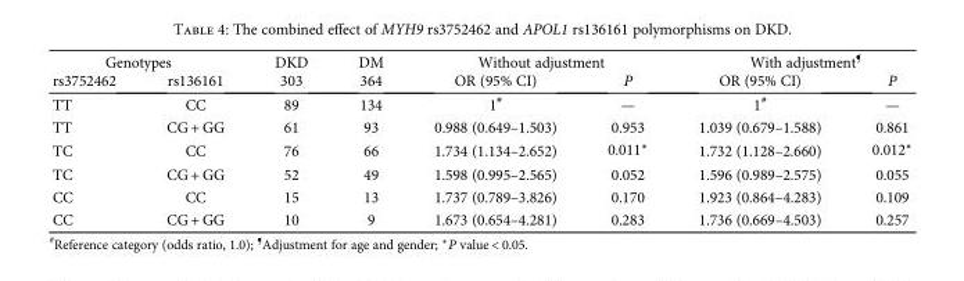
<table><thead><tr><td colspan="2">Genotypes</td><td rowspan="2">DKD 303</td><td rowspan="2">DM 364</td><td colspan="2">Without adjustment</td><td colspan="2">With adjustment<sup>¶</sup></td></tr><tr><td>rs3752462</td><td>rs136161</td><td>OR (95% CI)</td><td>P</td><td>OR (95% CI)</td><td>P</td></tr></thead><tbody><tr><td>TT</td><td>CC</td><td>89</td><td>134</td><td>1<sup>#</sup></td><td>—</td><td>1<sup>#</sup></td><td>—</td></tr><tr><td>TT</td><td>CG + GG</td><td>61</td><td>93</td><td>0.988 (0.649–1.503)</td><td>0.953</td><td>1.039 (0.679–1.588)</td><td>0.861</td></tr><tr><td>TC</td><td>CC</td><td>76</td><td>66</td><td>1.734 (1.134–2.652)</td><td>0.011∗</td><td>1.732 (1.128–2.660)</td><td>0.012∗</td></tr><tr><td>TC</td><td>CG + GG</td><td>52</td><td>49</td><td>1.598 (0.995–2.565)</td><td>0.052</td><td>1.596 (0.989–2.575)</td><td>0.055</td></tr><tr><td>CC</td><td>CC</td><td>15</td><td>13</td><td>1.737 (0.789–3.826)</td><td>0.170</td><td>1.923 (0.864–4.283)</td><td>0.109</td></tr><tr><td>CC</td><td>CG + GG</td><td>10</td><td>9</td><td>1.673 (0.654–4.281)</td><td>0.283</td><td>1.736 (0.669–4.503)</td><td>0.257</td></tr></tbody></table>